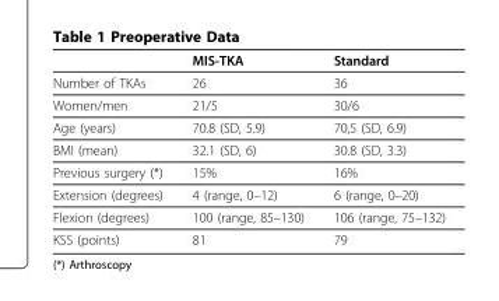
<table><thead><tr><td></td><td>MIS-TKA</td><td>Standard</td></tr></thead><tbody><tr><td>Number of TKAs</td><td>26</td><td>36</td></tr><tr><td>Women/men</td><td>21/5</td><td>30/6</td></tr><tr><td>Age (years)</td><td>70.8 (SD, 5.9)</td><td>70,5 (SD, 6.9)</td></tr><tr><td>BMI (mean)</td><td>32.1 (SD, 6)</td><td>30.8 (SD, 3.3)</td></tr><tr><td>Previous surgery (*)</td><td>15%</td><td>16%</td></tr><tr><td>Extension (degrees)</td><td>4 (range, 0–12)</td><td>6 (range, 0–20)</td></tr><tr><td>Flexion (degrees)</td><td>100 (range, 85–130)</td><td>106 (range, 75–132)</td></tr><tr><td>KSS (points)</td><td>81</td><td>79</td></tr></tbody></table>